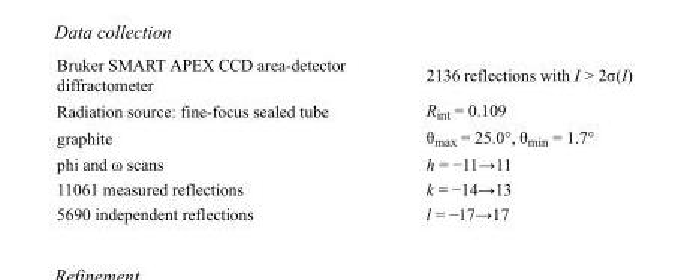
<table><tbody><tr><td>Bruker SMART APEX CCD area-detector diffractometer</td><td>2136 reflections with I &gt; 2σ(I)</td></tr><tr><td>Radiation source: fine-focus sealed tube</td><td>R<sub>int</sub> = 0.109</td></tr><tr><td>graphite</td><td>θ<sub>max</sub> = 25.0°, θ<sub>min</sub> = 1.7°</td></tr><tr><td>phi and ω scans</td><td>h = −11→11</td></tr><tr><td>11061 measured reflections</td><td>k = −14→13</td></tr><tr><td>5690 independent reflections</td><td>l = −17→17</td></tr></tbody></table>